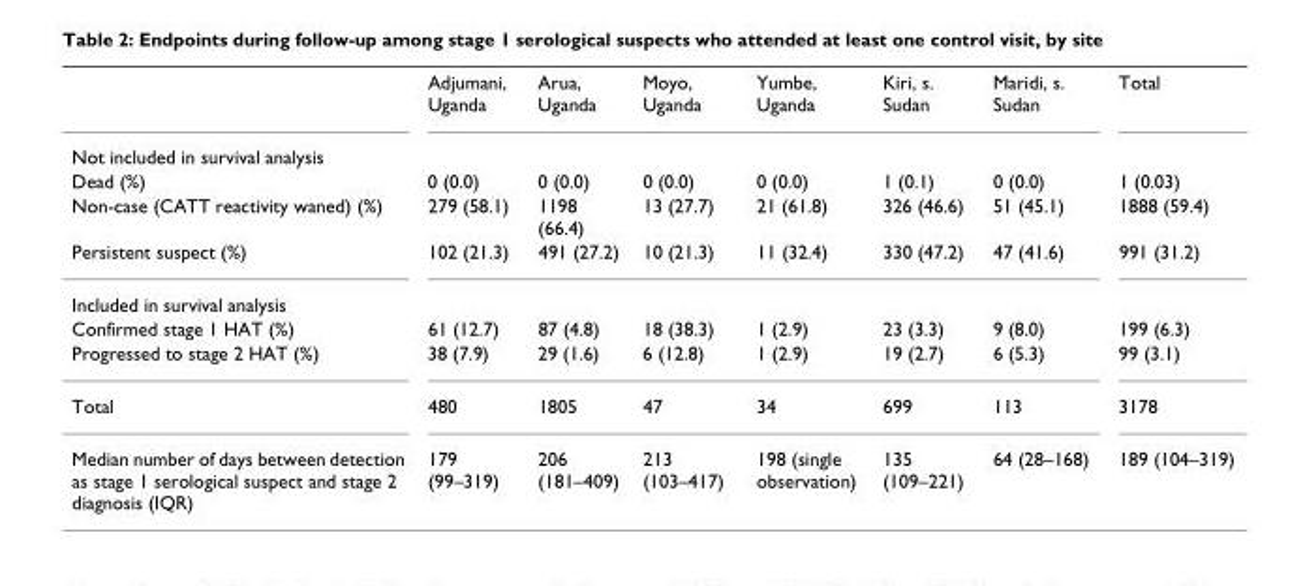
<table><thead><tr><td></td><td>Adjumani, Uganda</td><td>Arua, Uganda</td><td>Moyo, Uganda</td><td>Yumbe, Uganda</td><td>Kiri, s. Sudan</td><td>Maridi, s. Sudan</td><td>Total</td></tr></thead><tbody><tr><td colspan="8">Not included in survival analysis</td></tr><tr><td>Dead (%)</td><td>0 (0.0)</td><td>0 (0.0)</td><td>0 (0.0)</td><td>0 (0.0)</td><td>1 (0.1)</td><td>0 (0.0)</td><td>1 (0.03)</td></tr><tr><td>Non-case (CATT reactivity waned) (%)</td><td>279 (58.1)</td><td>1198 (66.4)</td><td>13 (27.7)</td><td>21 (61.8)</td><td>326 (46.6)</td><td>51 (45.1)</td><td>1888 (59.4)</td></tr><tr><td>Persistent suspect (%)</td><td>102 (21.3)</td><td>491 (27.2)</td><td>10 (21.3)</td><td>11 (32.4)</td><td>330 (47.2)</td><td>47 (41.6)</td><td>991 (31.2)</td></tr><tr><td colspan="8">Included in survival analysis</td></tr><tr><td>Confirmed stage 1 HAT (%)</td><td>61 (12.7)</td><td>87 (4.8)</td><td>18 (38.3)</td><td>1 (2.9)</td><td>23 (3.3)</td><td>9 (8.0)</td><td>199 (6.3)</td></tr><tr><td>Progressed to stage 2 HAT (%)</td><td>38 (7.9)</td><td>29 (1.6)</td><td>6 (12.8)</td><td>1 (2.9)</td><td>19 (2.7)</td><td>6 (5.3)</td><td>99 (3.1)</td></tr><tr><td>Total</td><td>480</td><td>1805</td><td>47</td><td>34</td><td>699</td><td>113</td><td>3178</td></tr><tr><td>Median number of days between detection as stage 1 serological suspect and stage 2 diagnosis (IQR)</td><td>179 (99–319)</td><td>206 (181–409)</td><td>213 (103–417)</td><td>198 (single observation)</td><td>135 (109–221)</td><td>64 (28–168)</td><td>189 (104–319)</td></tr></tbody></table>